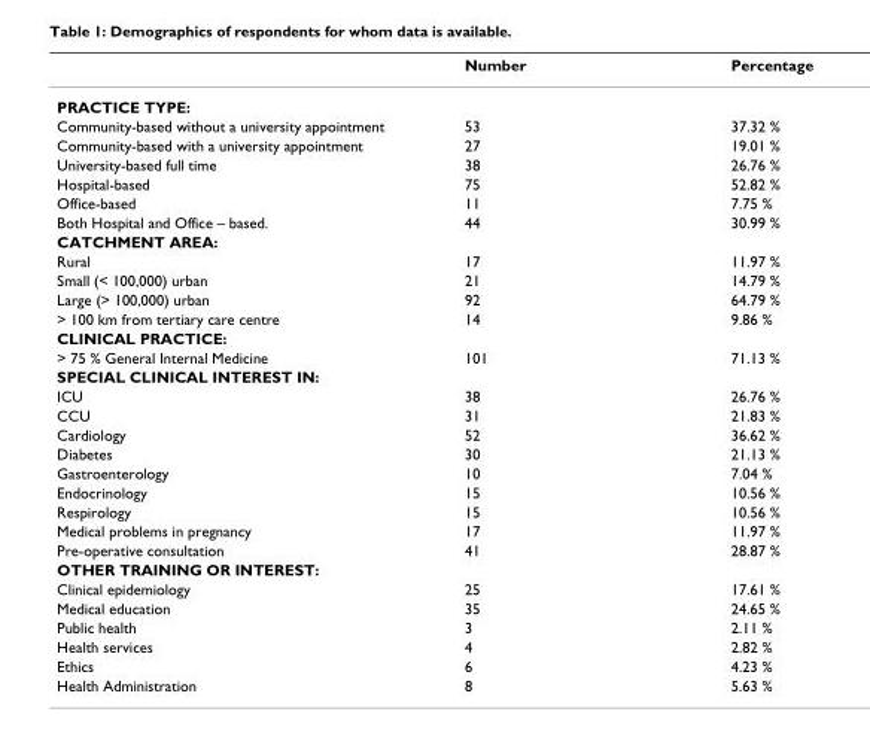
<table><thead><tr><td></td><td>Number</td><td>Percentage</td></tr></thead><tbody><tr><td colspan="3">PRACTICE TYPE:</td></tr><tr><td>Community-based without a university appointment</td><td>53</td><td>37.32 %</td></tr><tr><td>Community-based with a university appointment</td><td>27</td><td>19.01 %</td></tr><tr><td>University-based full time</td><td>38</td><td>26.76 %</td></tr><tr><td>Hospital-based</td><td>75</td><td>52.82 %</td></tr><tr><td>Office-based</td><td>11</td><td>7.75 %</td></tr><tr><td>Both Hospital and Office – based.</td><td>44</td><td>30.99 %</td></tr><tr><td colspan="3">CATCHMENT AREA:</td></tr><tr><td>Rural</td><td>17</td><td>11.97 %</td></tr><tr><td>Small (&lt; 100,000) urban</td><td>21</td><td>14.79 %</td></tr><tr><td>Large (&gt; 100,000) urban</td><td>92</td><td>64.79 %</td></tr><tr><td>&gt; 100 km from tertiary care centre</td><td>14</td><td>9.86 %</td></tr><tr><td colspan="3">CLINICAL PRACTICE:</td></tr><tr><td>&gt; 75 % General Internal Medicine</td><td>101</td><td>71.13 %</td></tr><tr><td colspan="3">SPECIAL CLINICAL INTEREST IN:</td></tr><tr><td>ICU</td><td>38</td><td>26.76 %</td></tr><tr><td>CCU</td><td>31</td><td>21.83 %</td></tr><tr><td>Cardiology</td><td>52</td><td>36.62 %</td></tr><tr><td>Diabetes</td><td>30</td><td>21.13 %</td></tr><tr><td>Gastroenterology</td><td>10</td><td>7.04 %</td></tr><tr><td>Endocrinology</td><td>15</td><td>10.56 %</td></tr><tr><td>Respirology</td><td>15</td><td>10.56 %</td></tr><tr><td>Medical problems in pregnancy</td><td>17</td><td>11.97 %</td></tr><tr><td>Pre-operative consultation</td><td>41</td><td>28.87 %</td></tr><tr><td colspan="3">OTHER TRAINING OR INTEREST:</td></tr><tr><td>Clinical epidemiology</td><td>25</td><td>17.61 %</td></tr><tr><td>Medical education</td><td>35</td><td>24.65 %</td></tr><tr><td>Public health</td><td>3</td><td>2.11 %</td></tr><tr><td>Health services</td><td>4</td><td>2.82 %</td></tr><tr><td>Ethics</td><td>6</td><td>4.23 %</td></tr><tr><td>Health Administration</td><td>8</td><td>5.63 %</td></tr></tbody></table>